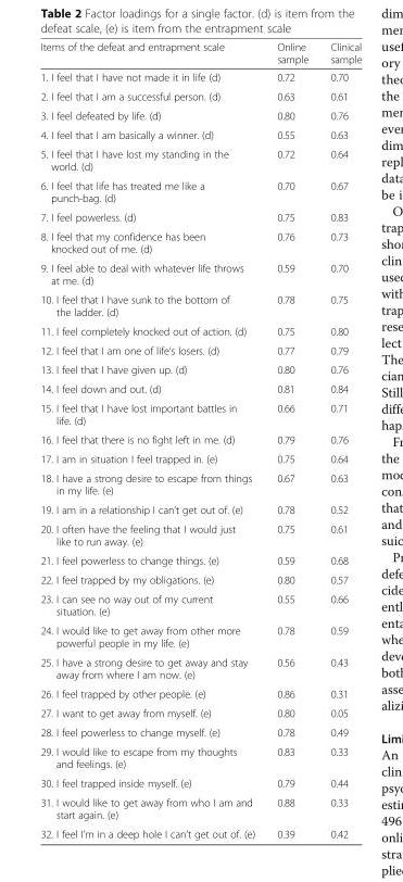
<table><thead><tr><td>Items of the defeat and entrapment scale</td><td>Online sample</td><td>Clinical sample</td></tr></thead><tbody><tr><td>1. I feel that I have not made it in life (d)</td><td>0.72</td><td>0.70</td></tr><tr><td>2. I feel that I am a successful person. (d)</td><td>0.63</td><td>0.61</td></tr><tr><td>3. I feel defeated by life. (d)</td><td>0.80</td><td>0.76</td></tr><tr><td>4. I feel that I am basically a winner. (d)</td><td>0.55</td><td>0.63</td></tr><tr><td>5. I feel that I have lost my standing in the world. (d)</td><td>0.72</td><td>0.64</td></tr><tr><td>6. I feel that life has treated me like a punch-bag. (d)</td><td>0.70</td><td>0.67</td></tr><tr><td>7. I feel powerless. (d)</td><td>0.75</td><td>0.83</td></tr><tr><td>8. I feel that my confidence has been knocked out of me. (d)</td><td>0.76</td><td>0.73</td></tr><tr><td>9. I feel able to deal with whatever life throws at me. (d)</td><td>0.59</td><td>0.70</td></tr><tr><td>10. I feel that I have sunk to the bottom of the ladder. (d)</td><td>0.78</td><td>0.75</td></tr><tr><td>11. I feel completely knocked out of action. (d)</td><td>0.75</td><td>0.80</td></tr><tr><td>12. I feel that I am one of life’s losers. (d)</td><td>0.77</td><td>0.79</td></tr><tr><td>13. I feel that I have given up. (d)</td><td>0.80</td><td>0.76</td></tr><tr><td>14. I feel down and out. (d)</td><td>0.81</td><td>0.84</td></tr><tr><td>15. I feel that I have lost important battles in life. (d)</td><td>0.66</td><td>0.71</td></tr><tr><td>16. I feel that there is no fight left in me. (d)</td><td>0.79</td><td>0.76</td></tr><tr><td>17. I am in situation I feel trapped in. (e)</td><td>0.75</td><td>0.64</td></tr><tr><td>18. I have a strong desire to escape from things in my life. (e)</td><td>0.67</td><td>0.63</td></tr><tr><td>19. I am in a relationship I can’t get out of. (e)</td><td>0.78</td><td>0.52</td></tr><tr><td>20. I often have the feeling that I would just like to run away. (e)</td><td>0.75</td><td>0.61</td></tr><tr><td>21. I feel powerless to change things. (e)</td><td>0.59</td><td>0.68</td></tr><tr><td>22. I feel trapped by my obligations. (e)</td><td>0.80</td><td>0.57</td></tr><tr><td>23. I can see no way out of my current situation. (e)</td><td>0.55</td><td>0.66</td></tr><tr><td>24. I would like to get away from other more powerful people in my life. (e)</td><td>0.78</td><td>0.59</td></tr><tr><td>25. I have a strong desire to get away and stay away from where I am now. (e)</td><td>0.56</td><td>0.43</td></tr><tr><td>26. I feel trapped by other people. (e)</td><td>0.86</td><td>0.31</td></tr><tr><td>27. I want to get away from myself. (e)</td><td>0.80</td><td>0.05</td></tr><tr><td>28. I feel powerless to change myself. (e)</td><td>0.78</td><td>0.49</td></tr><tr><td>29. I would like to escape from my thoughts and feelings. (e)</td><td>0.83</td><td>0.33</td></tr><tr><td>30. I feel trapped inside myself. (e)</td><td>0.79</td><td>0.44</td></tr><tr><td>31. I would like to get away from who I am and start again. (e)</td><td>0.88</td><td>0.33</td></tr><tr><td>32. I feel I’m in a deep hole I can’t get out of. (e)</td><td>0.39</td><td>0.42</td></tr></tbody></table>